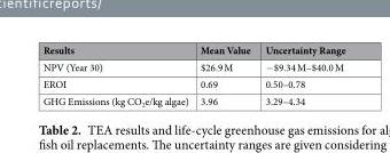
<table><thead><tr><td>Results</td><td>Mean Value</td><td>Uncertainty Range</td></tr></thead><tbody><tr><td>NPV (Year 30)</td><td>$26.9 M</td><td>−$9.34 M–$40.0 M</td></tr><tr><td>EROI</td><td>0.69</td><td>0.50–0.78</td></tr><tr><td>GHG Emissions (kg CO<sub>2</sub>e/kg algae)</td><td>3.96</td><td>3.29–4.34</td></tr></tbody></table>